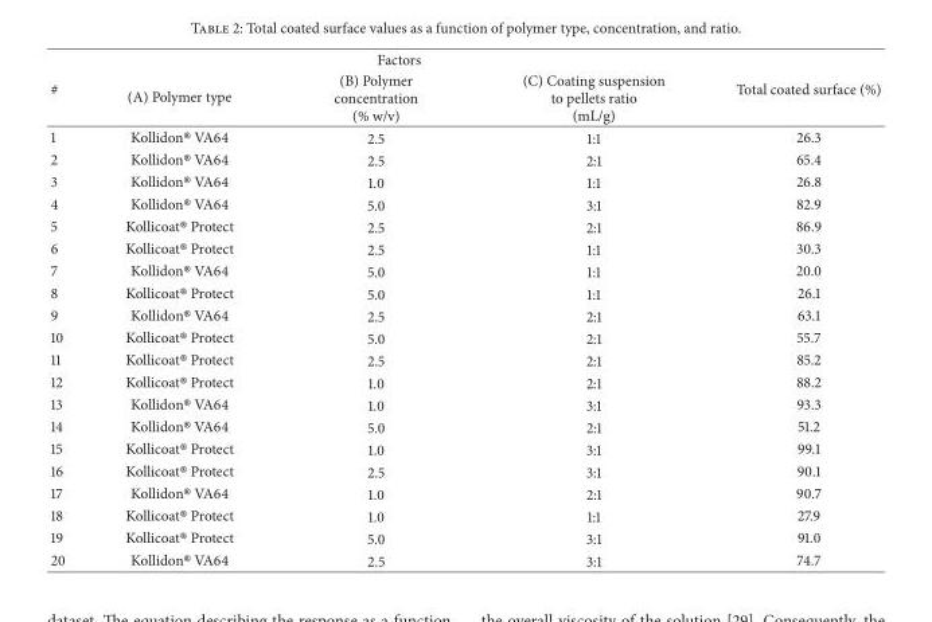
<table><thead><tr><td rowspan="2">#</td><td colspan="3">Factors</td><td rowspan="2">Total coated surface (%)</td></tr><tr><td>(A) Polymer type</td><td>(B) Polymer concentration (% w/v)</td><td>(C) Coating suspension to pellets ratio (mL/g)</td></tr></thead><tbody><tr><td>1</td><td>Kollidon® VA64</td><td>2.5</td><td>1:1</td><td>26.3</td></tr><tr><td>2</td><td>Kollidon® VA64</td><td>2.5</td><td>2:1</td><td>65.4</td></tr><tr><td>3</td><td>Kollidon® VA64</td><td>1.0</td><td>1:1</td><td>26.8</td></tr><tr><td>4</td><td>Kollidon® VA64</td><td>5.0</td><td>3:1</td><td>82.9</td></tr><tr><td>5</td><td>Kollicoat® Protect</td><td>2.5</td><td>2:1</td><td>86.9</td></tr><tr><td>6</td><td>Kollicoat® Protect</td><td>2.5</td><td>1:1</td><td>30.3</td></tr><tr><td>7</td><td>Kollidon® VA64</td><td>5.0</td><td>1:1</td><td>20.0</td></tr><tr><td>8</td><td>Kollicoat® Protect</td><td>5.0</td><td>1:1</td><td>26.1</td></tr><tr><td>9</td><td>Kollidon® VA64</td><td>2.5</td><td>2:1</td><td>63.1</td></tr><tr><td>10</td><td>Kollicoat® Protect</td><td>5.0</td><td>2:1</td><td>55.7</td></tr><tr><td>11</td><td>Kollicoat® Protect</td><td>2.5</td><td>2:1</td><td>85.2</td></tr><tr><td>12</td><td>Kollicoat® Protect</td><td>1.0</td><td>2:1</td><td>88.2</td></tr><tr><td>13</td><td>Kollidon® VA64</td><td>1.0</td><td>3:1</td><td>93.3</td></tr><tr><td>14</td><td>Kollidon® VA64</td><td>5.0</td><td>2:1</td><td>51.2</td></tr><tr><td>15</td><td>Kollicoat® Protect</td><td>1.0</td><td>3:1</td><td>99.1</td></tr><tr><td>16</td><td>Kollicoat® Protect</td><td>2.5</td><td>3:1</td><td>90.1</td></tr><tr><td>17</td><td>Kollidon® VA64</td><td>1.0</td><td>2:1</td><td>90.7</td></tr><tr><td>18</td><td>Kollicoat® Protect</td><td>1.0</td><td>1:1</td><td>27.9</td></tr><tr><td>19</td><td>Kollicoat® Protect</td><td>5.0</td><td>3:1</td><td>91.0</td></tr><tr><td>20</td><td>Kollidon® VA64</td><td>2.5</td><td>3:1</td><td>74.7</td></tr></tbody></table>